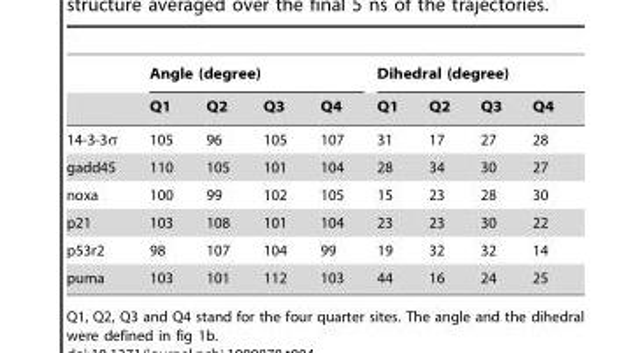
<table><thead><tr><td rowspan="2"></td><td colspan="4">Angle (degree)</td><td colspan="4">Dihedral (degree)</td></tr><tr><td>Q1</td><td>Q2</td><td>Q3</td><td>Q4</td><td>Q1</td><td>Q2</td><td>Q3</td><td>Q4</td></tr></thead><tbody><tr><td>14-3-3σ</td><td>105</td><td>96</td><td>105</td><td>107</td><td>31</td><td>17</td><td>27</td><td>28</td></tr><tr><td>gadd45</td><td>110</td><td>105</td><td>101</td><td>104</td><td>28</td><td>34</td><td>30</td><td>27</td></tr><tr><td>noxa</td><td>100</td><td>99</td><td>102</td><td>105</td><td>15</td><td>23</td><td>28</td><td>30</td></tr><tr><td>p21</td><td>103</td><td>108</td><td>101</td><td>104</td><td>23</td><td>23</td><td>30</td><td>22</td></tr><tr><td>p53r2</td><td>98</td><td>107</td><td>104</td><td>99</td><td>19</td><td>32</td><td>32</td><td>14</td></tr><tr><td>puma</td><td>103</td><td>101</td><td>112</td><td>103</td><td>44</td><td>16</td><td>24</td><td>25</td></tr></tbody></table>